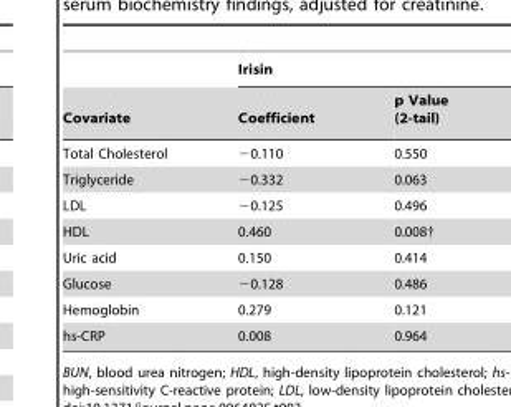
<table><thead><tr><td rowspan="2">Covariate</td><td colspan="2">Irisin</td></tr><tr><td>Coefficient</td><td>p Value (2-tail)</td></tr></thead><tbody><tr><td>Total Cholesterol</td><td>−0.110</td><td>0.550</td></tr><tr><td>Triglyceride</td><td>−0.332</td><td>0.063</td></tr><tr><td>LDL</td><td>−0.125</td><td>0.496</td></tr><tr><td>HDL</td><td>0.460</td><td>0.008†</td></tr><tr><td>Uric acid</td><td>0.150</td><td>0.414</td></tr><tr><td>Glucose</td><td>−0.128</td><td>0.486</td></tr><tr><td>Hemoglobin</td><td>0.279</td><td>0.121</td></tr><tr><td>hs-CRP</td><td>0.008</td><td>0.964</td></tr></tbody></table>